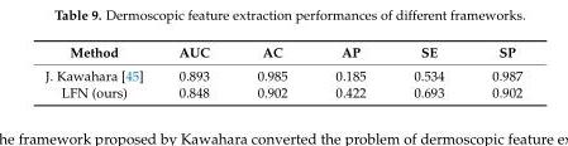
<table><thead><tr><td>Method</td><td>AUC</td><td>AC</td><td>AP</td><td>SE</td><td>SP</td></tr></thead><tbody><tr><td>J. Kawahara [45]</td><td>0.893</td><td>0.985</td><td>0.185</td><td>0.534</td><td>0.987</td></tr><tr><td>LFN (ours)</td><td>0.848</td><td>0.902</td><td>0.422</td><td>0.693</td><td>0.902</td></tr></tbody></table>